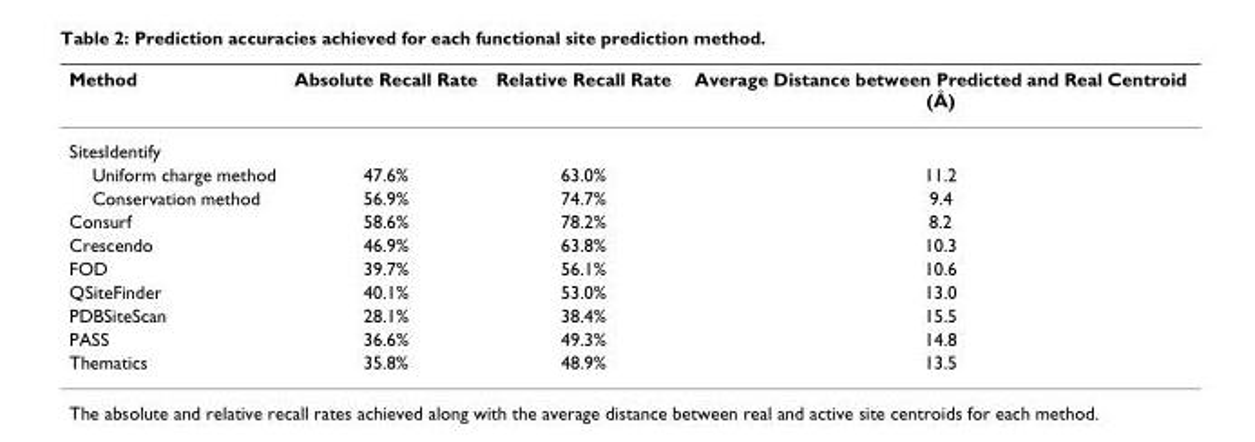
<table><thead><tr><td>Method</td><td>Absolute Recall Rate</td><td>Relative Recall Rate</td><td>Average Distance between Predicted and Real Centroid (Å)</td></tr></thead><tbody><tr><td colspan="4">SitesIdentify</td></tr><tr><td>Uniform charge method</td><td>47.6%</td><td>63.0%</td><td>11.2</td></tr><tr><td>Conservation method</td><td>56.9%</td><td>74.7%</td><td>9.4</td></tr><tr><td>Consurf</td><td>58.6%</td><td>78.2%</td><td>8.2</td></tr><tr><td>Crescendo</td><td>46.9%</td><td>63.8%</td><td>10.3</td></tr><tr><td>FOD</td><td>39.7%</td><td>56.1%</td><td>10.6</td></tr><tr><td>QSiteFinder</td><td>40.1%</td><td>53.0%</td><td>13.0</td></tr><tr><td>PDBSiteScan</td><td>28.1%</td><td>38.4%</td><td>15.5</td></tr><tr><td>PASS</td><td>36.6%</td><td>49.3%</td><td>14.8</td></tr><tr><td>Thematics</td><td>35.8%</td><td>48.9%</td><td>13.5</td></tr></tbody></table>